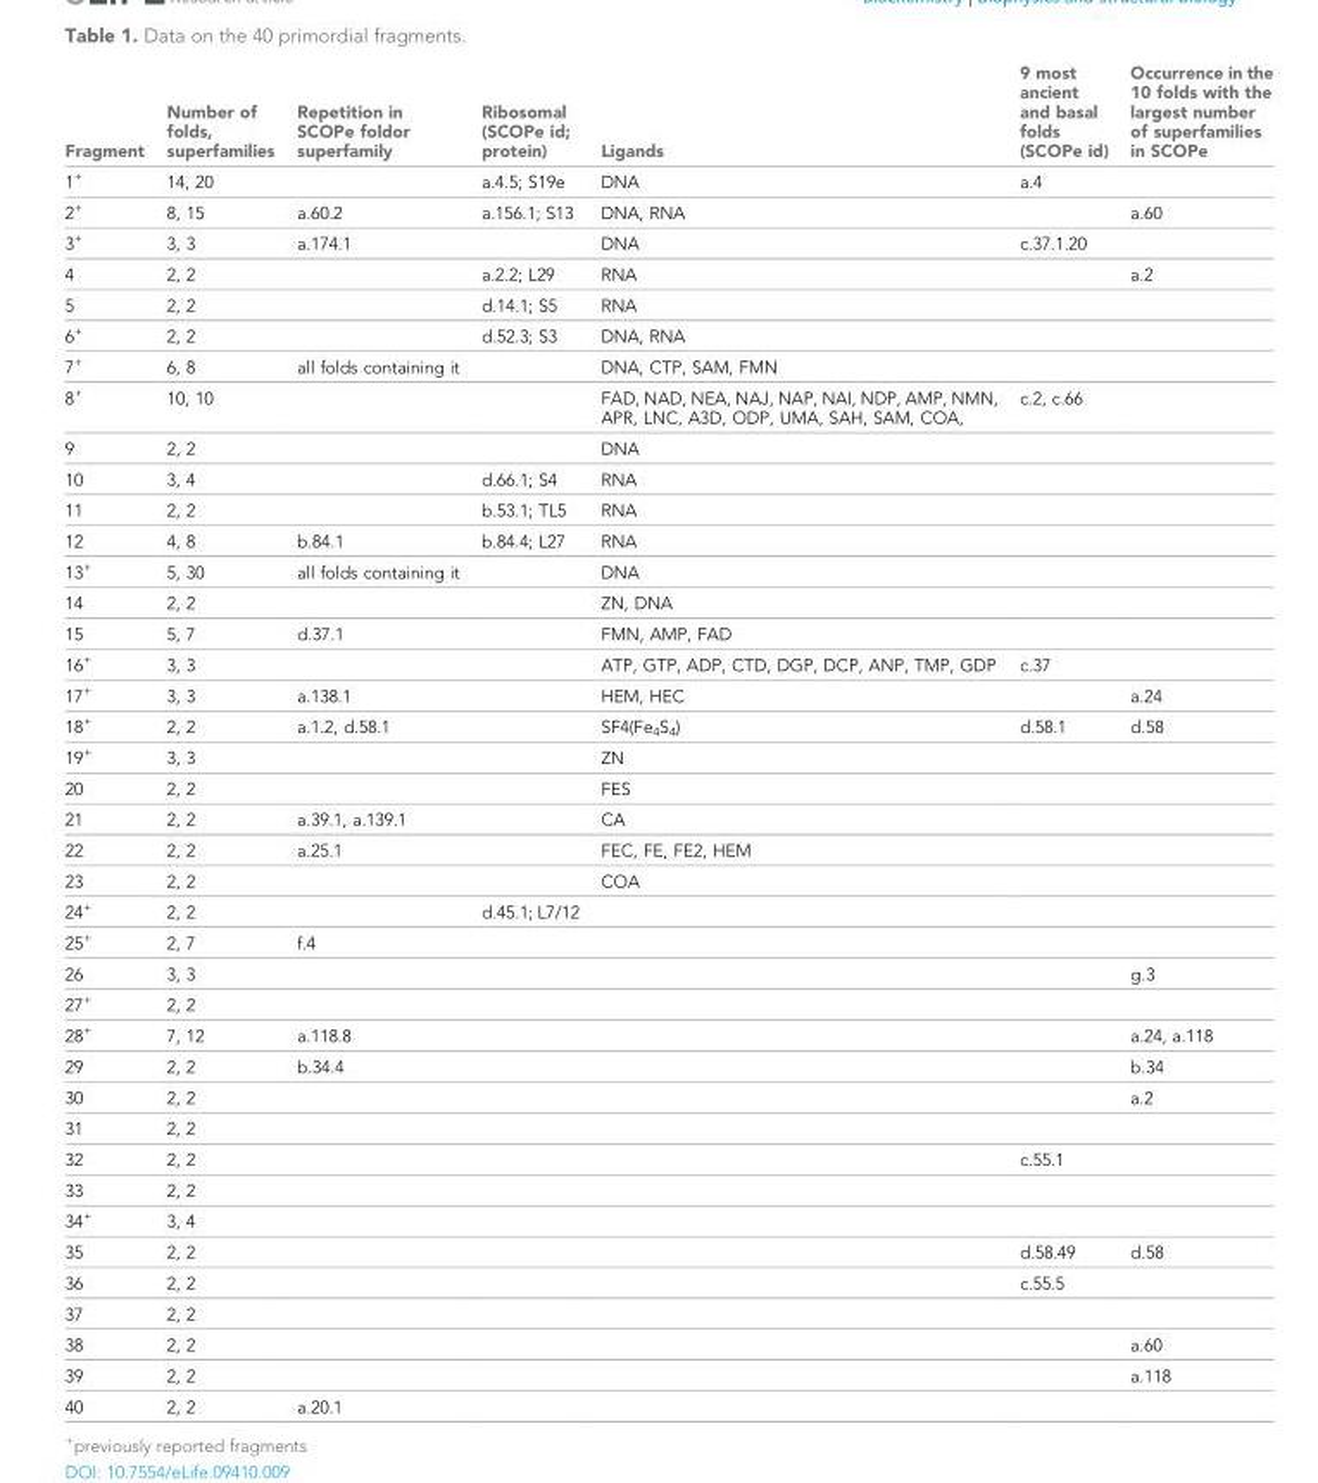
<table><thead><tr><td>Fragment</td><td>Number of folds, superfamilies</td><td>Repetition in SCOPe foldor superfamily</td><td>Ribosomal (SCOPe id; protein)</td><td>Ligands</td><td>9 most ancient and basal folds (SCOPe id)</td><td>Occurrence in the 10 folds with the largest number of superfamilies in SCOPe</td></tr></thead><tbody><tr><td>1<sup>+</sup></td><td>14, 20</td><td></td><td>a.4.5; S19e</td><td>DNA</td><td>a.4</td><td></td></tr><tr><td>2<sup>+</sup></td><td>8, 15</td><td>a.60.2</td><td>a.156.1; S13</td><td>DNA, RNA</td><td></td><td>a.60</td></tr><tr><td>3<sup>+</sup></td><td>3, 3</td><td>a.174.1</td><td></td><td>DNA</td><td>c.37.1.20</td><td></td></tr><tr><td>4</td><td>2, 2</td><td></td><td>a.2.2; L29</td><td>RNA</td><td></td><td>a.2</td></tr><tr><td>5</td><td>2, 2</td><td></td><td>d.14.1; S5</td><td>RNA</td><td></td><td></td></tr><tr><td>6<sup>+</sup></td><td>2, 2</td><td></td><td>d.52.3; S3</td><td>DNA, RNA</td><td></td><td></td></tr><tr><td>7<sup>+</sup></td><td>6, 8</td><td>all folds containing it</td><td></td><td>DNA, CTP, SAM, FMN</td><td></td><td></td></tr><tr><td>8<sup>+</sup></td><td>10, 10</td><td></td><td></td><td>FAD, NAD, NEA, NAJ, NAP, NAI, NDP, AMP, NMN, APR, LNC, A3D, ODP, UMA, SAH, SAM, COA,</td><td>c.2, c.66</td><td></td></tr><tr><td>9</td><td>2, 2</td><td></td><td></td><td>DNA</td><td></td><td></td></tr><tr><td>10</td><td>3, 4</td><td></td><td>d.66.1; S4</td><td>RNA</td><td></td><td></td></tr><tr><td>11</td><td>2, 2</td><td></td><td>b.53.1; TL5</td><td>RNA</td><td></td><td></td></tr><tr><td>12</td><td>4, 8</td><td>b.84.1</td><td>b.84.4; L27</td><td>RNA</td><td></td><td></td></tr><tr><td>13<sup>+</sup></td><td>5, 30</td><td>all folds containing it</td><td></td><td>DNA</td><td></td><td></td></tr><tr><td>14</td><td>2, 2</td><td></td><td></td><td>ZN, DNA</td><td></td><td></td></tr><tr><td>15</td><td>5, 7</td><td>d.37.1</td><td></td><td>FMN, AMP, FAD</td><td></td><td></td></tr><tr><td>16<sup>+</sup></td><td>3, 3</td><td></td><td></td><td>ATP, GTP, ADP, CTD, DGP, DCP, ANP, TMP, GDP</td><td>c.37</td><td></td></tr><tr><td>17<sup>+</sup></td><td>3, 3</td><td>a.138.1</td><td></td><td>HEM, HEC</td><td></td><td>a.24</td></tr><tr><td>18<sup>+</sup></td><td>2, 2</td><td>a.1.2, d.58.1</td><td></td><td>SF4(Fe<sub>4</sub>S<sub>4</sub>)</td><td>d.58.1</td><td>d.58</td></tr><tr><td>19<sup>+</sup></td><td>3, 3</td><td></td><td></td><td>ZN</td><td></td><td></td></tr><tr><td>20</td><td>2, 2</td><td></td><td></td><td>FES</td><td></td><td></td></tr><tr><td>21</td><td>2, 2</td><td>a.39.1, a.139.1</td><td></td><td>CA</td><td></td><td></td></tr><tr><td>22</td><td>2, 2</td><td>a.25.1</td><td></td><td>FEC, FE, FE2, HEM</td><td></td><td></td></tr><tr><td>23</td><td>2, 2</td><td></td><td></td><td>COA</td><td></td><td></td></tr><tr><td>24<sup>+</sup></td><td>2, 2</td><td></td><td>d.45.1; L7/12</td><td></td><td></td><td></td></tr><tr><td>25<sup>+</sup></td><td>2, 7</td><td>f.4</td><td></td><td></td><td></td><td></td></tr><tr><td>26</td><td>3, 3</td><td></td><td></td><td></td><td></td><td>g.3</td></tr><tr><td>27<sup>+</sup></td><td>2, 2</td><td></td><td></td><td></td><td></td><td></td></tr><tr><td>28<sup>+</sup></td><td>7, 12</td><td>a.118.8</td><td></td><td></td><td></td><td>a.24, a.118</td></tr><tr><td>29</td><td>2, 2</td><td>b.34.4</td><td></td><td></td><td></td><td>b.34</td></tr><tr><td>30</td><td>2, 2</td><td></td><td></td><td></td><td></td><td>a.2</td></tr><tr><td>31</td><td>2, 2</td><td></td><td></td><td></td><td></td><td></td></tr><tr><td>32</td><td>2, 2</td><td></td><td></td><td></td><td>c.55.1</td><td></td></tr><tr><td>33</td><td>2, 2</td><td></td><td></td><td></td><td></td><td></td></tr><tr><td>34<sup>+</sup></td><td>3, 4</td><td></td><td></td><td></td><td></td><td></td></tr><tr><td>35</td><td>2, 2</td><td></td><td></td><td></td><td>d.58.49</td><td>d.58</td></tr><tr><td>36</td><td>2, 2</td><td></td><td></td><td></td><td>c.55.5</td><td></td></tr><tr><td>37</td><td>2, 2</td><td></td><td></td><td></td><td></td><td></td></tr><tr><td>38</td><td>2, 2</td><td></td><td></td><td></td><td></td><td>a.60</td></tr><tr><td>39</td><td>2, 2</td><td></td><td></td><td></td><td></td><td>a.118</td></tr><tr><td>40</td><td>2, 2</td><td>a.20.1</td><td></td><td></td><td></td><td></td></tr></tbody></table>